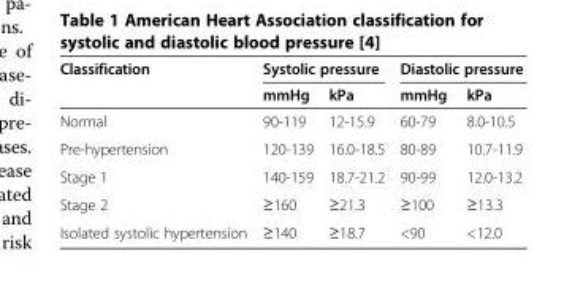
<table><thead><tr><td rowspan="2">Classification</td><td colspan="2">Systolic pressure</td><td colspan="2">Diastolic pressure</td></tr><tr><td>mmHg</td><td>kPa</td><td>mmHg</td><td>kPa</td></tr></thead><tbody><tr><td>Normal</td><td>90-119</td><td>12-15.9</td><td>60-79</td><td>8.0-10.5</td></tr><tr><td>Pre-hypertension</td><td>120-139</td><td>16.0-18.5</td><td>80-89</td><td>10.7-11.9</td></tr><tr><td>Stage 1</td><td>140-159</td><td>18.7-21.2</td><td>90-99</td><td>12.0-13.2</td></tr><tr><td>Stage 2</td><td>≥160</td><td>≥21.3</td><td>≥100</td><td>≥13.3</td></tr><tr><td>Isolated systolic hypertension</td><td>≥140</td><td>≥18.7</td><td>&lt;90</td><td>&lt;12.0</td></tr></tbody></table>